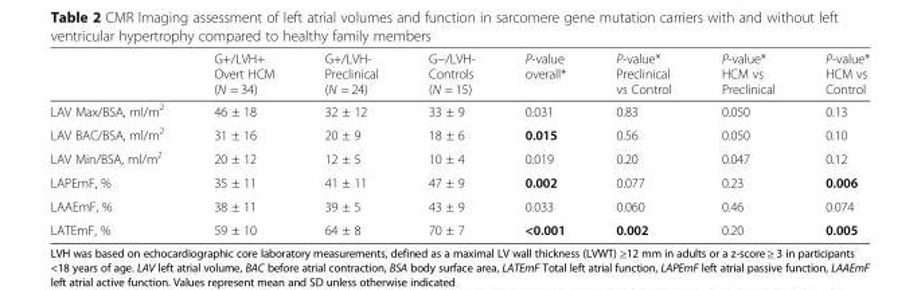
<table><thead><tr><td></td><td>G+/LVH+ Overt HCM (N = 34)</td><td>G+/LVH- Preclinical (N = 24)</td><td>G−/LVH- Controls (N = 15)</td><td>P-value overall*</td><td>P-value* Preclinical vs Control</td><td>P-value* HCM vs Preclinical</td><td>P-value* HCM vs Control</td></tr></thead><tbody><tr><td>LAV Max/BSA, ml/m<sup>2</sup></td><td>46 ± 18</td><td>32 ± 12</td><td>33 ± 9</td><td>0.031</td><td>0.83</td><td>0.050</td><td>0.13</td></tr><tr><td>LAV BAC/BSA, ml/m<sup>2</sup></td><td>31 ± 16</td><td>20 ± 9</td><td>18 ± 6</td><td>0.015</td><td>0.56</td><td>0.050</td><td>0.10</td></tr><tr><td>LAV Min/BSA, ml/m<sup>2</sup></td><td>20 ± 12</td><td>12 ± 5</td><td>10 ± 4</td><td>0.019</td><td>0.20</td><td>0.047</td><td>0.12</td></tr><tr><td>LAPEmF, %</td><td>35 ± 11</td><td>41 ± 11</td><td>47 ± 9</td><td>0.002</td><td>0.077</td><td>0.23</td><td>0.006</td></tr><tr><td>LAAEmF, %</td><td>38 ± 11</td><td>39 ± 5</td><td>43 ± 9</td><td>0.033</td><td>0.060</td><td>0.46</td><td>0.074</td></tr><tr><td>LATEmF, %</td><td>59 ± 10</td><td>64 ± 8</td><td>70 ± 7</td><td>&lt;0.001</td><td>0.002</td><td>0.20</td><td>0.005</td></tr></tbody></table>